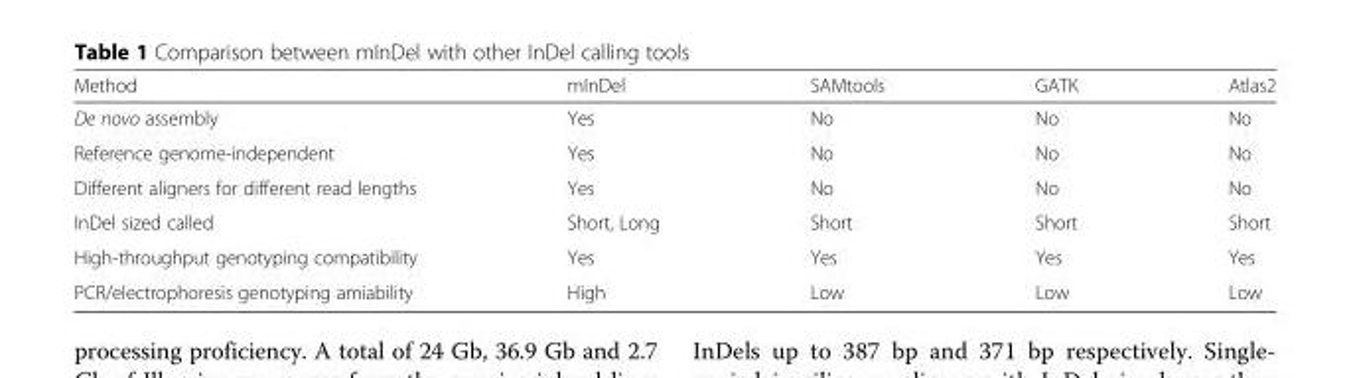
<table><thead><tr><td>Method</td><td>mInDel</td><td>SAMtools</td><td>GATK</td><td>Atlas2</td></tr></thead><tbody><tr><td>De novo assembly</td><td>Yes</td><td>No</td><td>No</td><td>No</td></tr><tr><td>Reference genome-independent</td><td>Yes</td><td>No</td><td>No</td><td>No</td></tr><tr><td>Different aligners for different read lengths</td><td>Yes</td><td>No</td><td>No</td><td>No</td></tr><tr><td>InDel sized called</td><td>Short, Long</td><td>Short</td><td>Short</td><td>Short</td></tr><tr><td>High-throughput genotyping compatibility</td><td>Yes</td><td>Yes</td><td>Yes</td><td>Yes</td></tr><tr><td>PCR/electrophoresis genotyping amiability</td><td>High</td><td>Low</td><td>Low</td><td>Low</td></tr></tbody></table>